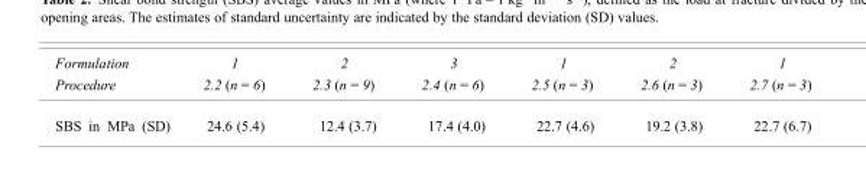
<table><thead><tr><td>Formulation Procedure</td><td>1 2.2 (n = 6)</td><td>2 2.3 (n = 9)</td><td>3 2.4 (n = 6)</td><td>1 2.5 (n = 3)</td><td>2 2.6 (n = 3)</td><td>1 2.7 (n = 3)</td></tr></thead><tbody><tr><td>SBS in MPa (SD)</td><td>24.6 (5.4)</td><td>12.4 (3.7)</td><td>17.4 (4.0)</td><td>22.7 (4.6)</td><td>19.2 (3.8)</td><td>22.7 (6.7)</td></tr></tbody></table>